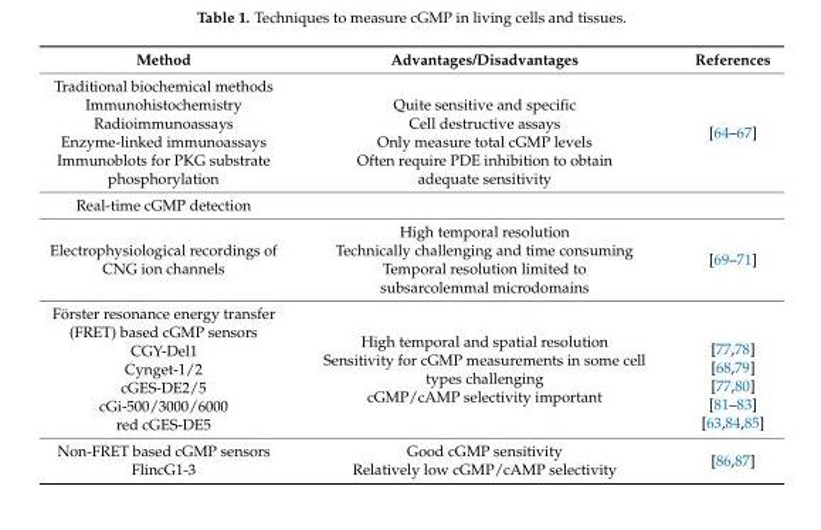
<table><thead><tr><td>Method</td><td>Advantages/Disadvantages</td><td>References</td></tr></thead><tbody><tr><td colspan="3">Traditional biochemical methods</td></tr><tr><td>Immunohistochemistry</td><td>Quite sensitive and specific</td><td rowspan="4">[64–67]</td></tr><tr><td>Radioimmunoassays</td><td>Cell destructive assays</td></tr><tr><td>Enzyme-linked immunoassays</td><td>Only measure total cGMP levels</td></tr><tr><td>Immunoblots for PKG substrate phosphorylation</td><td>Often require PDE inhibition to obtain adequate sensitivity</td></tr><tr><td colspan="3">Real-time cGMP detection</td></tr><tr><td>Electrophysiological recordings of CNG ion channels</td><td>High temporal resolution Technically challenging and time consuming Temporal resolution limited to subsarcolemmal microdomains</td><td>[69–71]</td></tr><tr><td>Förster resonance energy transfer (FRET) based cGMP sensors CGY-Del1 Cynget-1/2 cGES-DE2/5 cGi-500/3000/6000 red cGES-DE5</td><td>High temporal and spatial resolution Sensitivity for cGMP measurements in some cell types challenging cGMP/cAMP selectivity important</td><td>[77,78] [68,79] [77,80] [81–83] [63,84,85]</td></tr><tr><td>Non-FRET based cGMP sensors</td><td>Good cGMP sensitivity</td><td rowspan="2">[86,87]</td></tr><tr><td>FlincG1-3</td><td>Relatively low cGMP/cAMP selectivity</td></tr></tbody></table>